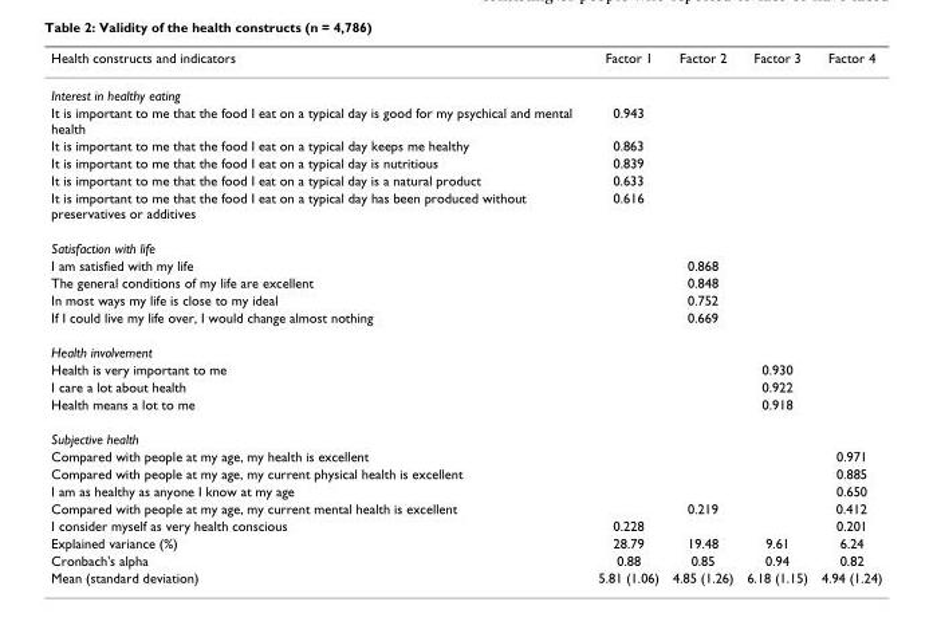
<table><thead><tr><td>Health constructs and indicators</td><td>Factor 1</td><td>Factor 2</td><td>Factor 3</td><td>Factor 4</td></tr></thead><tbody><tr><td colspan="5">Interest in healthy eating</td></tr><tr><td>It is important to me that the food I eat on a typical day is good for my psychical and mental health</td><td>0.943</td><td></td><td></td><td></td></tr><tr><td>It is important to me that the food I eat on a typical day keeps me healthy</td><td>0.863</td><td></td><td></td><td></td></tr><tr><td>It is important to me that the food I eat on a typical day is nutritious</td><td>0.839</td><td></td><td></td><td></td></tr><tr><td>It is important to me that the food I eat on a typical day is a natural product</td><td>0.633</td><td></td><td></td><td></td></tr><tr><td>It is important to me that the food I eat on a typical day has been produced without preservatives or additives</td><td>0.616</td><td></td><td></td><td></td></tr><tr><td colspan="5">Satisfaction with life</td></tr><tr><td>I am satisfied with my life</td><td></td><td>0.868</td><td></td><td></td></tr><tr><td>The general conditions of my life are excellent</td><td></td><td>0.848</td><td></td><td></td></tr><tr><td>In most ways my life is close to my ideal</td><td></td><td>0.752</td><td></td><td></td></tr><tr><td>If I could live my life over, I would change almost nothing</td><td></td><td>0.669</td><td></td><td></td></tr><tr><td colspan="5">Health involvement</td></tr><tr><td>Health is very important to me</td><td></td><td></td><td>0.930</td><td></td></tr><tr><td>I care a lot about health</td><td></td><td></td><td>0.922</td><td></td></tr><tr><td>Health means a lot to me</td><td></td><td></td><td>0.918</td><td></td></tr><tr><td colspan="5">Subjective health</td></tr><tr><td>Compared with people at my age, my health is excellent</td><td></td><td></td><td></td><td>0.971</td></tr><tr><td>Compared with people at my age, my current physical health is excellent</td><td></td><td></td><td></td><td>0.885</td></tr><tr><td>I am as healthy as anyone I know at my age</td><td></td><td></td><td></td><td>0.650</td></tr><tr><td>Compared with people at my age, my current mental health is excellent</td><td></td><td>0.219</td><td></td><td>0.412</td></tr><tr><td>I consider myself as very health conscious</td><td>0.228</td><td></td><td></td><td>0.201</td></tr><tr><td>Explained variance (%)</td><td>28.79</td><td>19.48</td><td>9.61</td><td>6.24</td></tr><tr><td>Cronbach&#x27;s alpha</td><td>0.88</td><td>0.85</td><td>0.94</td><td>0.82</td></tr><tr><td>Mean (standard deviation)</td><td>5.81 (1.06)</td><td>4.85 (1.26)</td><td>6.18 (1.15)</td><td>4.94 (1.24)</td></tr></tbody></table>